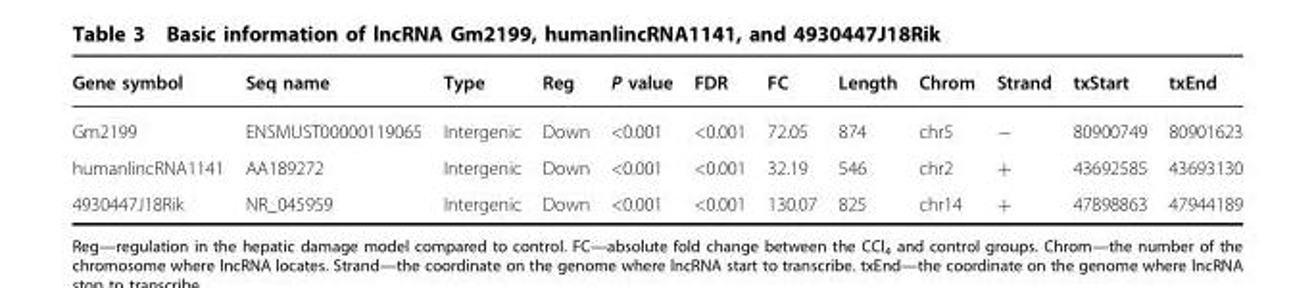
<table><thead><tr><td>Gene symbol</td><td>Seq name</td><td>Type</td><td>Reg</td><td>P value</td><td>FDR</td><td>FC</td><td>Length</td><td>Chrom</td><td>Strand</td><td>txStart</td><td>txEnd</td></tr></thead><tbody><tr><td>Gm2199</td><td>ENSMUST00000119065</td><td>Intergenic</td><td>Down</td><td>&lt;0.001</td><td>&lt;0.001</td><td>72.05</td><td>874</td><td>chr5</td><td>−</td><td>80900749</td><td>80901623</td></tr><tr><td>humanlincRNA1141</td><td>AA189272</td><td>Intergenic</td><td>Down</td><td>&lt;0.001</td><td>&lt;0.001</td><td>32.19</td><td>546</td><td>chr2</td><td>+</td><td>43692585</td><td>43693130</td></tr><tr><td>4930447J18Rik</td><td>NR_045959</td><td>Intergenic</td><td>Down</td><td>&lt;0.001</td><td>&lt;0.001</td><td>130.07</td><td>825</td><td>chr14</td><td>+</td><td>47898863</td><td>47944189</td></tr></tbody></table>